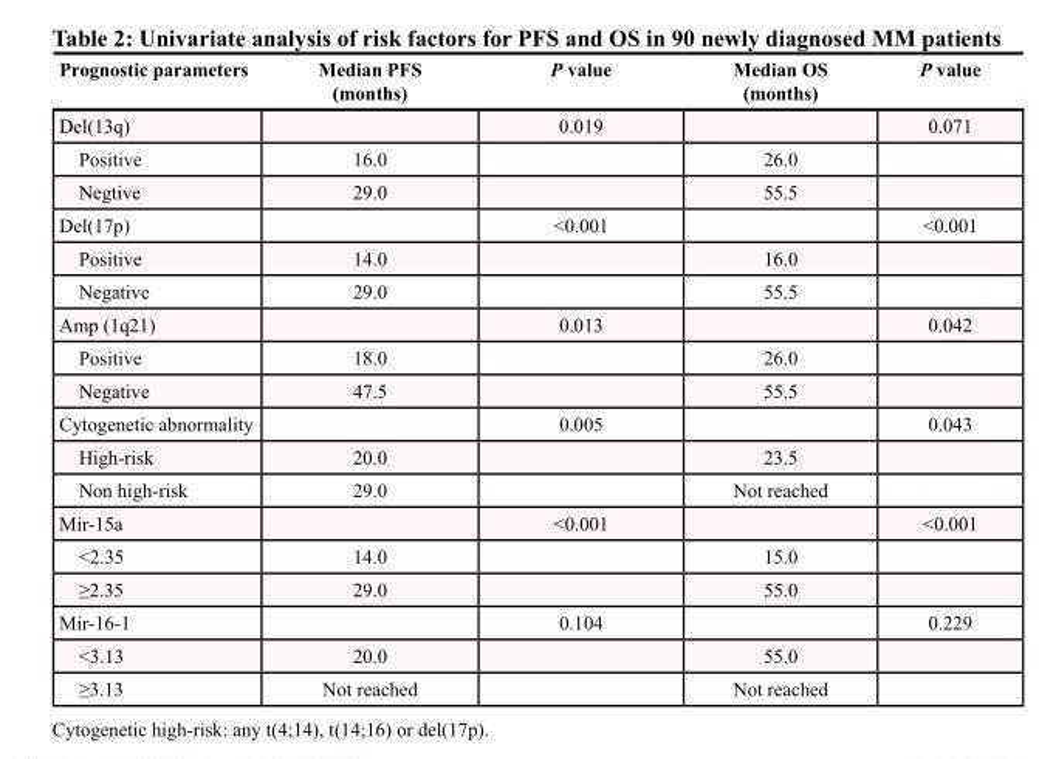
<table><thead><tr><td>Prognostic parameters</td><td>Median PFS (months)</td><td>P value</td><td>Median OS (months)</td><td>P value</td></tr></thead><tbody><tr><td>Del(13q)</td><td></td><td>0.019</td><td></td><td>0.071</td></tr><tr><td>Positive</td><td>16.0</td><td></td><td>26.0</td><td></td></tr><tr><td>Negtive</td><td>29.0</td><td></td><td>55.5</td><td></td></tr><tr><td>Del(17p)</td><td></td><td>&lt;0.001</td><td></td><td>&lt;0.001</td></tr><tr><td>Positive</td><td>14.0</td><td></td><td>16.0</td><td></td></tr><tr><td>Negative</td><td>29.0</td><td></td><td>55.5</td><td></td></tr><tr><td>Amp (1q21)</td><td></td><td>0.013</td><td></td><td>0.042</td></tr><tr><td>Positive</td><td>18.0</td><td></td><td>26.0</td><td></td></tr><tr><td>Negative</td><td>47.5</td><td></td><td>55.5</td><td></td></tr><tr><td>Cytogenetic abnormality</td><td></td><td>0.005</td><td></td><td>0.043</td></tr><tr><td>High-risk</td><td>20.0</td><td></td><td>23.5</td><td></td></tr><tr><td>Non high-risk</td><td>29.0</td><td></td><td>Not reached</td><td></td></tr><tr><td>Mir-15a</td><td></td><td>&lt;0.001</td><td></td><td>&lt;0.001</td></tr><tr><td>&lt;2.35</td><td>14.0</td><td></td><td>15.0</td><td></td></tr><tr><td>≥2.35</td><td>29.0</td><td></td><td>55.0</td><td></td></tr><tr><td>Mir-16-1</td><td></td><td>0.104</td><td></td><td>0.229</td></tr><tr><td>&lt;3.13</td><td>20.0</td><td></td><td>55.0</td><td></td></tr><tr><td>≥3.13</td><td>Not reached</td><td></td><td>Not reached</td><td></td></tr></tbody></table>